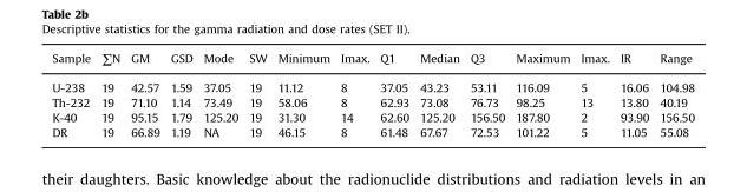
<table><thead><tr><td>Sample</td><td>∑N</td><td>GM</td><td>GSD</td><td>Mode</td><td>SW</td><td>Minimum</td><td>Imax.</td><td>Q1</td><td>Median</td><td>Q3</td><td>Maximum</td><td>Imax.</td><td>IR</td><td>Range</td></tr></thead><tbody><tr><td>U-238</td><td>19</td><td>42.57</td><td>1.59</td><td>37.05</td><td>19</td><td>11.12</td><td>8</td><td>37.05</td><td>43.23</td><td>53.11</td><td>116.09</td><td>5</td><td>16.06</td><td>104.98</td></tr><tr><td>Th-232</td><td>19</td><td>71.10</td><td>1.14</td><td>73.49</td><td>19</td><td>58.06</td><td>8</td><td>62.93</td><td>73.08</td><td>76.73</td><td>98.25</td><td>13</td><td>13.80</td><td>40.19</td></tr><tr><td>K-40</td><td>19</td><td>95.15</td><td>1.79</td><td>125.20</td><td>19</td><td>31.30</td><td>14</td><td>62.60</td><td>125.20</td><td>156.50</td><td>187.80</td><td>2</td><td>93.90</td><td>156.50</td></tr><tr><td>DR</td><td>19</td><td>66.89</td><td>1.19</td><td>NA</td><td>19</td><td>46.15</td><td>8</td><td>61.48</td><td>67.67</td><td>72.53</td><td>101.22</td><td>5</td><td>11.05</td><td>55.08</td></tr></tbody></table>